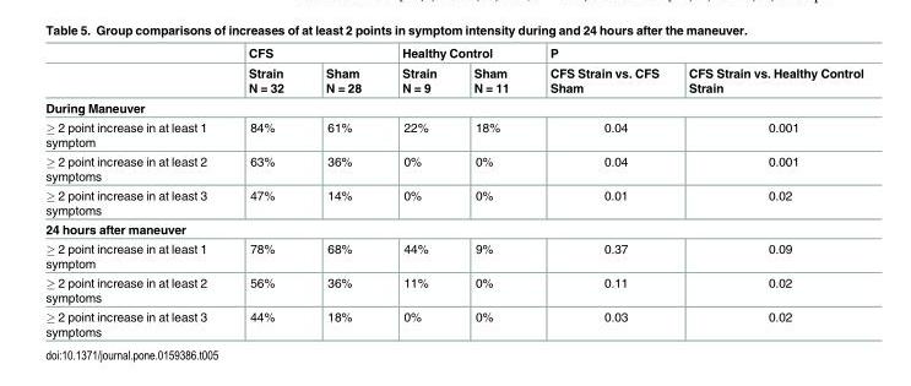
<table><thead><tr><td rowspan="2"></td><td colspan="2">CFS</td><td colspan="2">Healthy Control</td><td colspan="2">P</td></tr><tr><td>Strain N = 32</td><td>Sham N = 28</td><td>Strain N = 9</td><td>Sham N = 11</td><td>CFS Strain vs. CFS Sham</td><td>CFS Strain vs. Healthy Control Strain</td></tr></thead><tbody><tr><td colspan="7">During Maneuver</td></tr><tr><td>≥ 2 point increase in at least 1 symptom</td><td>84%</td><td>61%</td><td>22%</td><td>18%</td><td>0.04</td><td>0.001</td></tr><tr><td>≥ 2 point increase in at least 2 symptoms</td><td>63%</td><td>36%</td><td>0%</td><td>0%</td><td>0.04</td><td>0.001</td></tr><tr><td>≥ 2 point increase in at least 3 symptoms</td><td>47%</td><td>14%</td><td>0%</td><td>0%</td><td>0.01</td><td>0.02</td></tr><tr><td colspan="7">24 hours after maneuver</td></tr><tr><td>≥ 2 point increase in at least 1 symptom</td><td>78%</td><td>68%</td><td>44%</td><td>9%</td><td>0.37</td><td>0.09</td></tr><tr><td>≥ 2 point increase in at least 2 symptoms</td><td>56%</td><td>36%</td><td>11%</td><td>0%</td><td>0.11</td><td>0.02</td></tr><tr><td>≥ 2 point increase in at least 3 symptoms</td><td>44%</td><td>18%</td><td>0%</td><td>0%</td><td>0.03</td><td>0.02</td></tr></tbody></table>